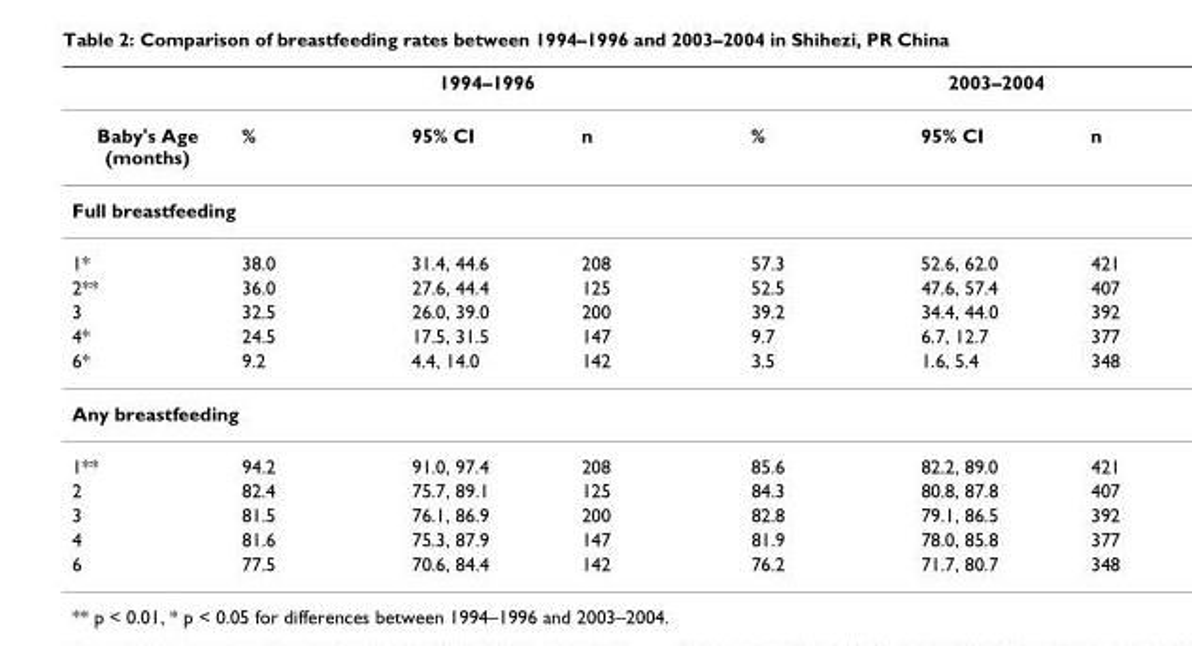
<table><thead><tr><td rowspan="2">Baby&#x27;s Age (months)</td><td colspan="3">1994–1996</td><td colspan="3">2003–2004</td></tr><tr><td>%</td><td>95% CI</td><td>n</td><td>%</td><td>95% CI</td><td>n</td></tr></thead><tbody><tr><td colspan="7">Full breastfeeding</td></tr><tr><td>1*</td><td>38.0</td><td>31.4, 44.6</td><td>208</td><td>57.3</td><td>52.6, 62.0</td><td>421</td></tr><tr><td>2**</td><td>36.0</td><td>27.6, 44.4</td><td>125</td><td>52.5</td><td>47.6, 57.4</td><td>407</td></tr><tr><td>3</td><td>32.5</td><td>26.0, 39.0</td><td>200</td><td>39.2</td><td>34.4, 44.0</td><td>392</td></tr><tr><td>4*</td><td>24.5</td><td>17.5, 31.5</td><td>147</td><td>9.7</td><td>6.7, 12.7</td><td>377</td></tr><tr><td>6*</td><td>9.2</td><td>4.4, 14.0</td><td>142</td><td>3.5</td><td>1.6, 5.4</td><td>348</td></tr><tr><td colspan="7">Any breastfeeding</td></tr><tr><td>1**</td><td>94.2</td><td>91.0, 97.4</td><td>208</td><td>85.6</td><td>82.2, 89.0</td><td>421</td></tr><tr><td>2</td><td>82.4</td><td>75.7, 89.1</td><td>125</td><td>84.3</td><td>80.8, 87.8</td><td>407</td></tr><tr><td>3</td><td>81.5</td><td>76.1, 86.9</td><td>200</td><td>82.8</td><td>79.1, 86.5</td><td>392</td></tr><tr><td>4</td><td>81.6</td><td>75.3, 87.9</td><td>147</td><td>81.9</td><td>78.0, 85.8</td><td>377</td></tr><tr><td>6</td><td>77.5</td><td>70.6, 84.4</td><td>142</td><td>76.2</td><td>71.7, 80.7</td><td>348</td></tr></tbody></table>